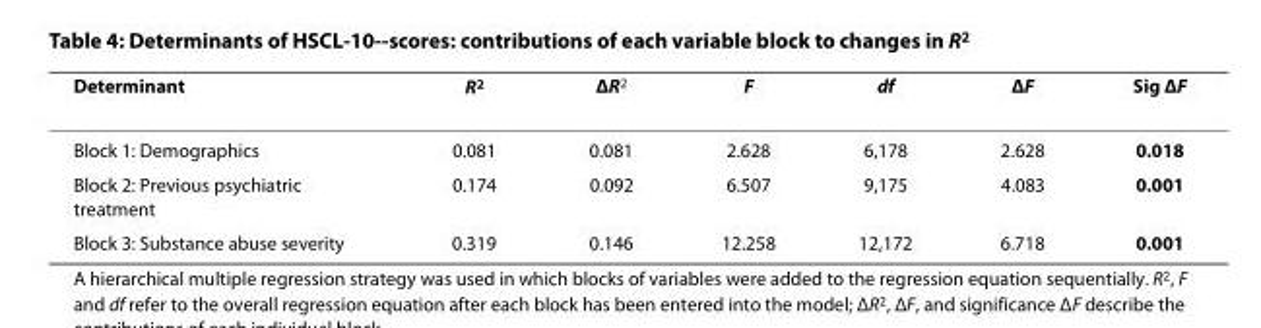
<table><thead><tr><td>Determinant</td><td>R<sup>2</sup></td><td>ΔR<sup>2</sup></td><td>F</td><td>df</td><td>ΔF</td><td>Sig ΔF</td></tr></thead><tbody><tr><td>Block 1: Demographics</td><td>0.081</td><td>0.081</td><td>2.628</td><td>6,178</td><td>2.628</td><td>0.018</td></tr><tr><td>Block 2: Previous psychiatric treatment</td><td>0.174</td><td>0.092</td><td>6.507</td><td>9,175</td><td>4.083</td><td>0.001</td></tr><tr><td>Block 3: Substance abuse severity</td><td>0.319</td><td>0.146</td><td>12.258</td><td>12,172</td><td>6.718</td><td>0.001</td></tr></tbody></table>